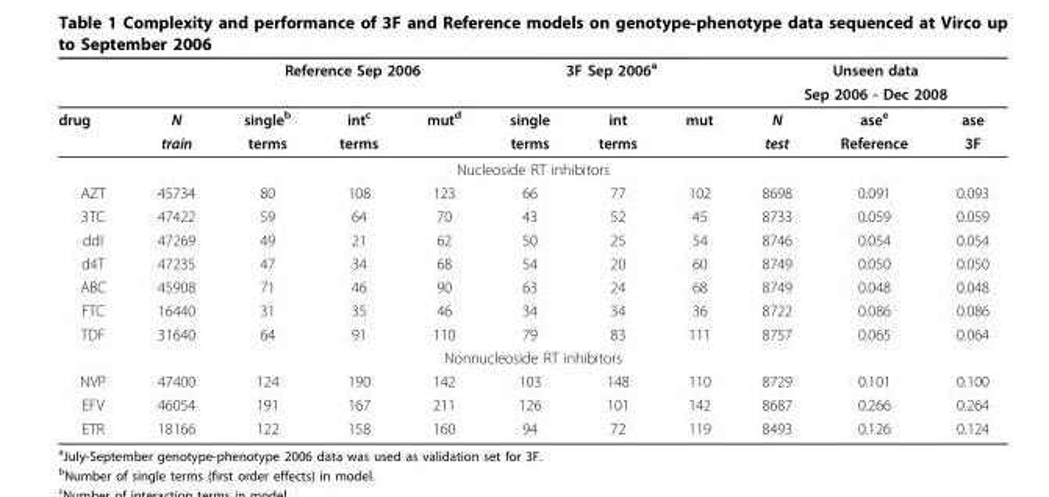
<table><thead><tr><td rowspan="3">drug</td><td rowspan="3">N</td><td colspan="3">Reference Sep 2006</td><td colspan="3">3F Sep 2006<sup>a</sup></td><td rowspan="2" colspan="3">Unseen data Sep 2006 - Dec 2008</td></tr><tr><td rowspan="2">single<sup>b</sup></td><td rowspan="2">int<sup>c</sup></td><td rowspan="2">mut<sup>d</sup></td><td rowspan="2">single</td><td rowspan="2">int</td><td rowspan="2">mut</td></tr><tr><td>N</td><td>ase<sup>e</sup></td><td>ase</td></tr></thead><tbody><tr><td></td><td>train</td><td>terms</td><td>terms</td><td></td><td>terms</td><td>terms</td><td></td><td>test</td><td>Reference</td><td>3F</td></tr><tr><td colspan="11">Nucleoside RT inhibitors</td></tr><tr><td>AZT</td><td>45734</td><td>80</td><td>108</td><td>123</td><td>66</td><td>77</td><td>102</td><td>8698</td><td>0.091</td><td>0.093</td></tr><tr><td>3TC</td><td>47422</td><td>59</td><td>64</td><td>70</td><td>43</td><td>52</td><td>45</td><td>8733</td><td>0.059</td><td>0.059</td></tr><tr><td>ddI</td><td>47269</td><td>49</td><td>21</td><td>62</td><td>50</td><td>25</td><td>54</td><td>8746</td><td>0.054</td><td>0.054</td></tr><tr><td>d4T</td><td>47235</td><td>47</td><td>34</td><td>68</td><td>54</td><td>20</td><td>60</td><td>8749</td><td>0.050</td><td>0.050</td></tr><tr><td>ABC</td><td>45908</td><td>71</td><td>46</td><td>90</td><td>63</td><td>24</td><td>68</td><td>8749</td><td>0.048</td><td>0.048</td></tr><tr><td>FTC</td><td>16440</td><td>31</td><td>35</td><td>46</td><td>34</td><td>34</td><td>36</td><td>8722</td><td>0.086</td><td>0.086</td></tr><tr><td>TDF</td><td>31640</td><td>64</td><td>91</td><td>110</td><td>79</td><td>83</td><td>111</td><td>8757</td><td>0.065</td><td>0.064</td></tr><tr><td colspan="11">Nonnucleoside RT inhibitors</td></tr><tr><td>NVP</td><td>47400</td><td>124</td><td>190</td><td>142</td><td>103</td><td>148</td><td>110</td><td>8729</td><td>0.101</td><td>0.100</td></tr><tr><td>EFV</td><td>46054</td><td>191</td><td>167</td><td>211</td><td>126</td><td>101</td><td>142</td><td>8687</td><td>0.266</td><td>0.264</td></tr><tr><td>ETR</td><td>18166</td><td>122</td><td>158</td><td>160</td><td>94</td><td>72</td><td>119</td><td>8493</td><td>0.126</td><td>0.124</td></tr></tbody></table>